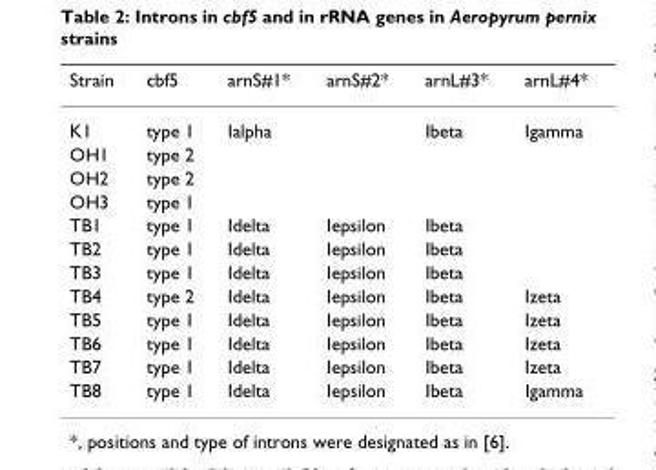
<table><thead><tr><td>Strain</td><td>cbf5</td><td>arnS#1*</td><td>arnS#2*</td><td>arnL#3*</td><td>arnL#4*</td></tr></thead><tbody><tr><td>K1</td><td>type 1</td><td>Ialpha</td><td></td><td>Ibeta</td><td>Igamma</td></tr><tr><td>OH1</td><td>type 2</td><td></td><td></td><td></td><td></td></tr><tr><td>OH2</td><td>type 2</td><td></td><td></td><td></td><td></td></tr><tr><td>OH3</td><td>type 1</td><td></td><td></td><td></td><td></td></tr><tr><td>TB1</td><td>type 1</td><td>Idelta</td><td>Iepsilon</td><td>Ibeta</td><td></td></tr><tr><td>TB2</td><td>type 1</td><td>Idelta</td><td>Iepsilon</td><td>Ibeta</td><td></td></tr><tr><td>TB3</td><td>type 1</td><td>Idelta</td><td>Iepsilon</td><td>Ibeta</td><td></td></tr><tr><td>TB4</td><td>type 2</td><td>Idelta</td><td>Iepsilon</td><td>Ibeta</td><td>Izeta</td></tr><tr><td>TB5</td><td>type 1</td><td>Idelta</td><td>Iepsilon</td><td>Ibeta</td><td>Izeta</td></tr><tr><td>TB6</td><td>type 1</td><td>Idelta</td><td>Iepsilon</td><td>Ibeta</td><td>Izeta</td></tr><tr><td>TB7</td><td>type 1</td><td>Idelta</td><td>Iepsilon</td><td>Ibeta</td><td>Izeta</td></tr><tr><td>TB8</td><td>type 1</td><td>Idelta</td><td>Iepsilon</td><td>Ibeta</td><td>Igamma</td></tr></tbody></table>